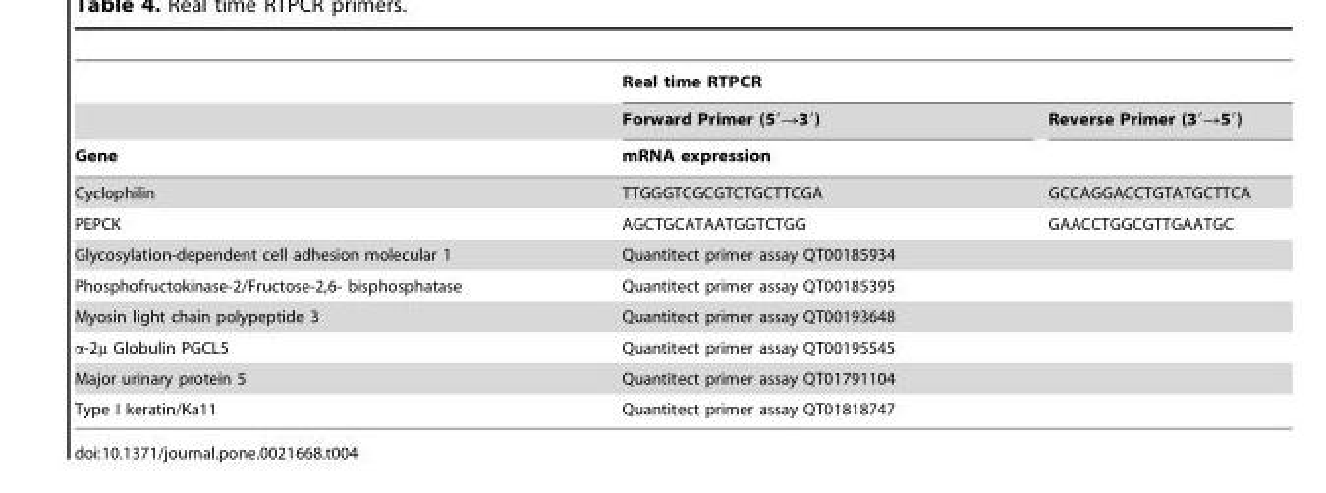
<table><thead><tr><td rowspan="3">Gene</td><td colspan="2">Real time RTPCR</td></tr><tr><td>Forward Primer (5′→3′)</td><td>Reverse Primer (3′→5′)</td></tr><tr><td colspan="2">mRNA expression</td></tr></thead><tbody><tr><td>Cyclophilin</td><td>TTGGGTCGCGTCTGCTTCGA</td><td>GCCAGGACCTGTATGCTTCA</td></tr><tr><td>PEPCK</td><td>AGCTGCATAATGGTCTGG</td><td>GAACCTGGCGTTGAATGC</td></tr><tr><td>Glycosylation-dependent cell adhesion molecular 1</td><td colspan="2">Quantitect primer assay QT00185934</td></tr><tr><td>Phosphofructokinase-2/Fructose-2,6- bisphosphatase</td><td colspan="2">Quantitect primer assay QT00185395</td></tr><tr><td>Myosin light chain polypeptide 3</td><td colspan="2">Quantitect primer assay QT00193648</td></tr><tr><td>α-2μ Globulin PGCL5</td><td colspan="2">Quantitect primer assay QT00195545</td></tr><tr><td>Major urinary protein 5</td><td colspan="2">Quantitect primer assay QT01791104</td></tr><tr><td>Type I keratin/Ka11</td><td colspan="2">Quantitect primer assay QT01818747</td></tr></tbody></table>